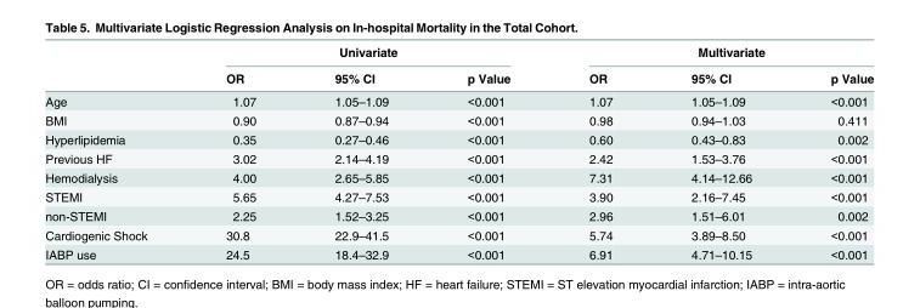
<table><thead><tr><td rowspan="2"></td><td colspan="3">Univariate</td><td colspan="3">Multivariate</td></tr><tr><td>OR</td><td>95% CI</td><td>p Value</td><td>OR</td><td>95% CI</td><td>p Value</td></tr></thead><tbody><tr><td>Age</td><td>1.07</td><td>1.05–1.09</td><td>&lt;0.001</td><td>1.07</td><td>1.05–1.09</td><td>&lt;0.001</td></tr><tr><td>BMI</td><td>0.90</td><td>0.87–0.94</td><td>&lt;0.001</td><td>0.98</td><td>0.94–1.03</td><td>0.411</td></tr><tr><td>Hyperlipidemia</td><td>0.35</td><td>0.27–0.46</td><td>&lt;0.001</td><td>0.60</td><td>0.43–0.83</td><td>0.002</td></tr><tr><td>Previous HF</td><td>3.02</td><td>2.14–4.19</td><td>&lt;0.001</td><td>2.42</td><td>1.53–3.76</td><td>&lt;0.001</td></tr><tr><td>Hemodialysis</td><td>4.00</td><td>2.65–5.85</td><td>&lt;0.001</td><td>7.31</td><td>4.14–12.66</td><td>&lt;0.001</td></tr><tr><td>STEMI</td><td>5.65</td><td>4.27–7.53</td><td>&lt;0.001</td><td>3.90</td><td>2.16–7.45</td><td>&lt;0.001</td></tr><tr><td>non-STEMI</td><td>2.25</td><td>1.52–3.25</td><td>&lt;0.001</td><td>2.96</td><td>1.51–6.01</td><td>0.002</td></tr><tr><td>Cardiogenic Shock</td><td>30.8</td><td>22.9–41.5</td><td>&lt;0.001</td><td>5.74</td><td>3.89–8.50</td><td>&lt;0.001</td></tr><tr><td>IABP use</td><td>24.5</td><td>18.4–32.9</td><td>&lt;0.001</td><td>6.91</td><td>4.71–10.15</td><td>&lt;0.001</td></tr></tbody></table>